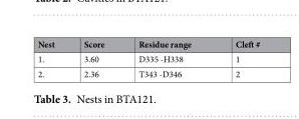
<table><thead><tr><td>Nest</td><td>Score</td><td>Residue range</td><td>Cleft #</td></tr></thead><tbody><tr><td>1.</td><td>3.60</td><td>D335 -H338</td><td>1</td></tr><tr><td>2.</td><td>2.36</td><td>T343 -D346</td><td>2</td></tr></tbody></table>